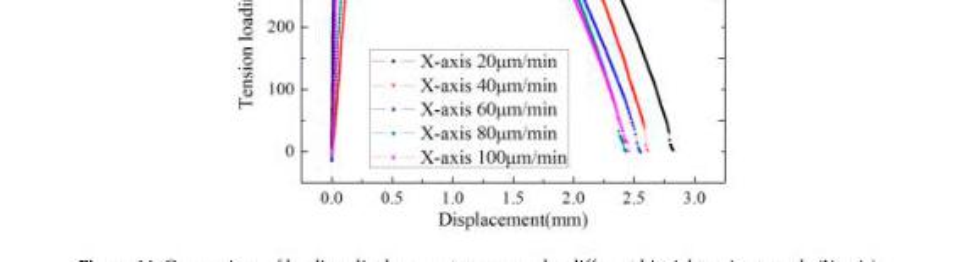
<table><thead><tr><td>No.</td><td>Tension Speed</td><td>Specimen No.</td><td>Data No.</td><td>X Anti-Tensile Limit</td><td>Y Anti-Tensile Limit</td></tr></thead><tbody><tr><td>1</td><td>20 μm/min</td><td>1#</td><td>SZ01</td><td>381.80 MPa</td><td>404.60 MPa</td></tr><tr><td>2</td><td>40 μm/min</td><td>2#</td><td>SZ02</td><td>388.31 MPa</td><td>406.31 MPa</td></tr><tr><td>3</td><td>60 μm/min</td><td>3#</td><td>SZ03</td><td>394.30 MPa</td><td>415.84 MPa</td></tr><tr><td>4</td><td>80 μm/min</td><td>4#</td><td>SZ04</td><td>402.39 MPa</td><td>429.02 MPa</td></tr><tr><td>5</td><td>100 μm/min</td><td>5#</td><td>SZ05</td><td>402.53 MPa</td><td>430.06 MPa</td></tr></tbody></table>